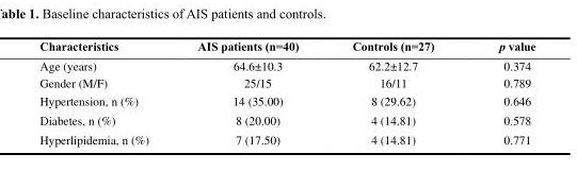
<table><thead><tr><td>Characteristics</td><td>AIS patients (n=40)</td><td>Controls (n=27)</td><td>p value</td></tr></thead><tbody><tr><td>Age (years)</td><td>64.6±10.3</td><td>62.2±12.7</td><td>0.374</td></tr><tr><td>Gender (M/F)</td><td>25/15</td><td>16/11</td><td>0.789</td></tr><tr><td>Hypertension, n (%)</td><td>14 (35.00)</td><td>8 (29.62)</td><td>0.646</td></tr><tr><td>Diabetes, n (%)</td><td>8 (20.00)</td><td>4 (14.81)</td><td>0.578</td></tr><tr><td>Hyperlipidemia, n (%)</td><td>7 (17.50)</td><td>4 (14.81)</td><td>0.771</td></tr></tbody></table>